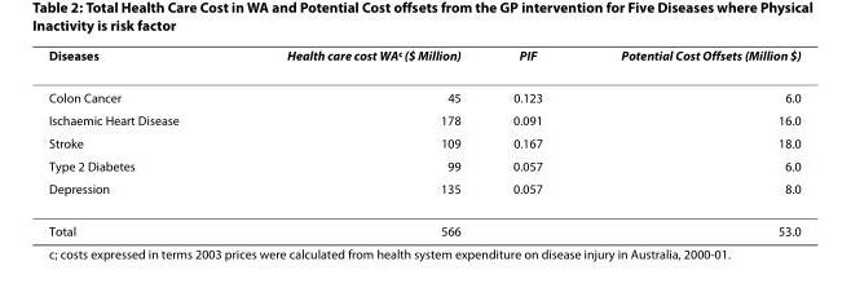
<table><thead><tr><td>Diseases</td><td>Health care cost WA<sup>c</sup> ($ Million)</td><td>PIF</td><td>Potential Cost Offsets (Million $)</td></tr></thead><tbody><tr><td>Colon Cancer</td><td>45</td><td>0.123</td><td>6.0</td></tr><tr><td>Ischaemic Heart Disease</td><td>178</td><td>0.091</td><td>16.0</td></tr><tr><td>Stroke</td><td>109</td><td>0.167</td><td>18.0</td></tr><tr><td>Type 2 Diabetes</td><td>99</td><td>0.057</td><td>6.0</td></tr><tr><td>Depression</td><td>135</td><td>0.057</td><td>8.0</td></tr><tr><td>Total</td><td>566</td><td></td><td>53.0</td></tr></tbody></table>